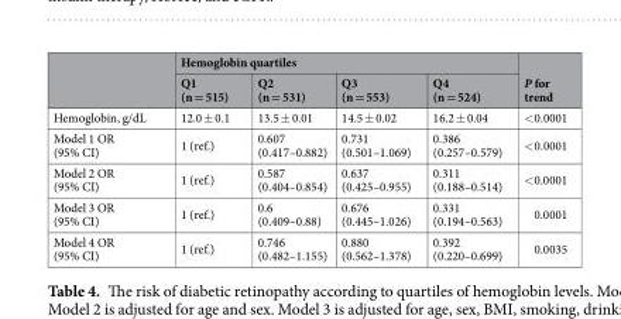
<table><thead><tr><td rowspan="2"></td><td colspan="4">Hemoglobin quartiles</td><td rowspan="2">P for trend</td></tr><tr><td>Q1 (n = 515)</td><td>Q2 (n = 531)</td><td>Q3 (n = 553)</td><td>Q4 (n = 524)</td></tr></thead><tbody><tr><td>Hemoglobin, g/dL</td><td>12.0 ± 0.1</td><td>13.5 ± 0.01</td><td>14.5 ± 0.02</td><td>16.2 ± 0.04</td><td>&lt;0.0001</td></tr><tr><td>Model 1 OR (95% CI)</td><td>1 (ref.)</td><td>0.607 (0.417–0.882)</td><td>0.731 (0.501–1.069)</td><td>0.386 (0.257–0.579)</td><td>&lt;0.0001</td></tr><tr><td>Model 2 OR (95% CI)</td><td>1 (ref.)</td><td>0.587 (0.404–0.854)</td><td>0.637 (0.425–0.955)</td><td>0.311 (0.188–0.514)</td><td>&lt;0.0001</td></tr><tr><td>Model 3 OR (95% CI)</td><td>1 (ref.)</td><td>0.6 (0.409–0.88)</td><td>0.676 (0.445–1.026)</td><td>0.331 (0.194–0.563)</td><td>0.0001</td></tr><tr><td>Model 4 OR (95% CI)</td><td>1 (ref.)</td><td>0.746 (0.482–1.155)</td><td>0.880 (0.562–1.378)</td><td>0.392 (0.220–0.699)</td><td>0.0035</td></tr></tbody></table>